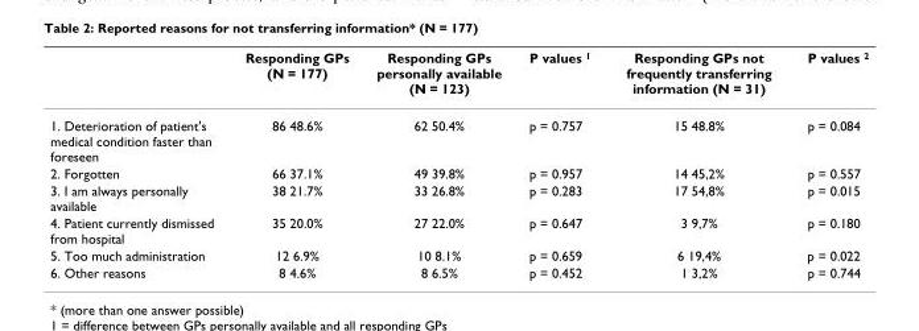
<table><thead><tr><td></td><td>Responding GPs (N = 177)</td><td>Responding GPs personally available (N = 123)</td><td>P values <sup>1</sup></td><td>Responding GPs not frequently transferring information (N = 31)</td><td>P values <sup>2</sup></td></tr></thead><tbody><tr><td>1. Deterioration of patient&#x27;s medical condition faster than foreseen</td><td>86 48.6%</td><td>62 50.4%</td><td>p = 0.757</td><td>15 48.8%</td><td>p = 0.084</td></tr><tr><td>2. Forgotten</td><td>66 37.1%</td><td>49 39.8%</td><td>p = 0.957</td><td>14 45,2%</td><td>p = 0.557</td></tr><tr><td>3. I am always personally available</td><td>38 21.7%</td><td>33 26.8%</td><td>p = 0.283</td><td>17 54,8%</td><td>p = 0.015</td></tr><tr><td>4. Patient currently dismissed from hospital</td><td>35 20.0%</td><td>27 22.0%</td><td>p = 0.647</td><td>3 9,7%</td><td>p = 0.180</td></tr><tr><td>5. Too much administration</td><td>12 6.9%</td><td>10 8.1%</td><td>p = 0.659</td><td>6 19,4%</td><td>p = 0.022</td></tr><tr><td>6. Other reasons</td><td>8 4.6%</td><td>8 6.5%</td><td>p = 0.452</td><td>1 3,2%</td><td>p = 0.744</td></tr></tbody></table>